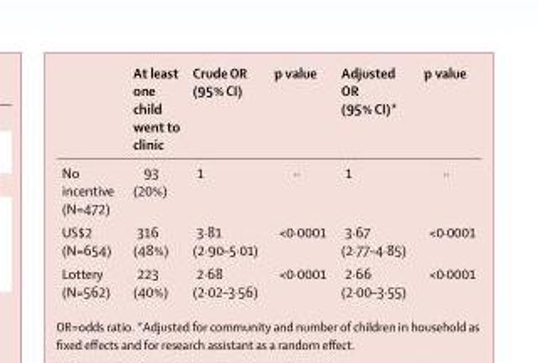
<table><thead><tr><td></td><td>At least one child went to clinic</td><td>Crude OR (95% CI)</td><td>p value</td><td>Adjusted OR (95% CI)*</td><td>p value</td></tr></thead><tbody><tr><td>No incentive (N=472)</td><td>93 (20%)</td><td>1</td><td>··</td><td>1</td><td>··</td></tr><tr><td>US$2 (N=654)</td><td>316 (48%)</td><td>3·81 (2·90–5·01)</td><td>&lt;0·0001</td><td>3·67 (2·77–4·85)</td><td>&lt;0·0001</td></tr><tr><td>Lottery (N=562)</td><td>223 (40%)</td><td>2·68 (2·02–3·56)</td><td>&lt;0·0001</td><td>2·66 (2·00–3·55)</td><td>&lt;0·0001</td></tr></tbody></table>